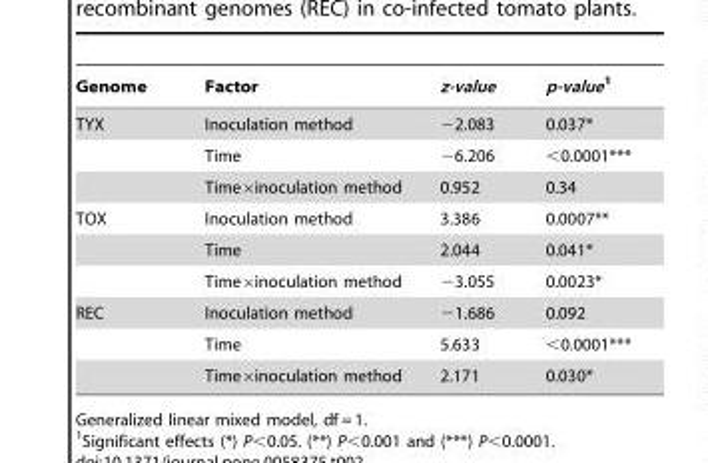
<table><thead><tr><td>Genome</td><td>Factor</td><td>z-value</td><td>p-value1</td></tr></thead><tbody><tr><td rowspan="3">TYX</td><td>Inoculation method</td><td>−2.083</td><td>0.037*</td></tr><tr><td>Time</td><td>−6.206</td><td>&lt;0.0001***</td></tr><tr><td>Time×inoculation method</td><td>0.952</td><td>0.34</td></tr><tr><td rowspan="3">TOX</td><td>Inoculation method</td><td>3.386</td><td>0.0007**</td></tr><tr><td>Time</td><td>2.044</td><td>0.041*</td></tr><tr><td>Time×inoculation method</td><td>−3.055</td><td>0.0023*</td></tr><tr><td rowspan="3">REC</td><td>Inoculation method</td><td>−1.686</td><td>0.092</td></tr><tr><td>Time</td><td>5.633</td><td>&lt;0.0001***</td></tr><tr><td>Time×inoculation method</td><td>2.171</td><td>0.030*</td></tr></tbody></table>